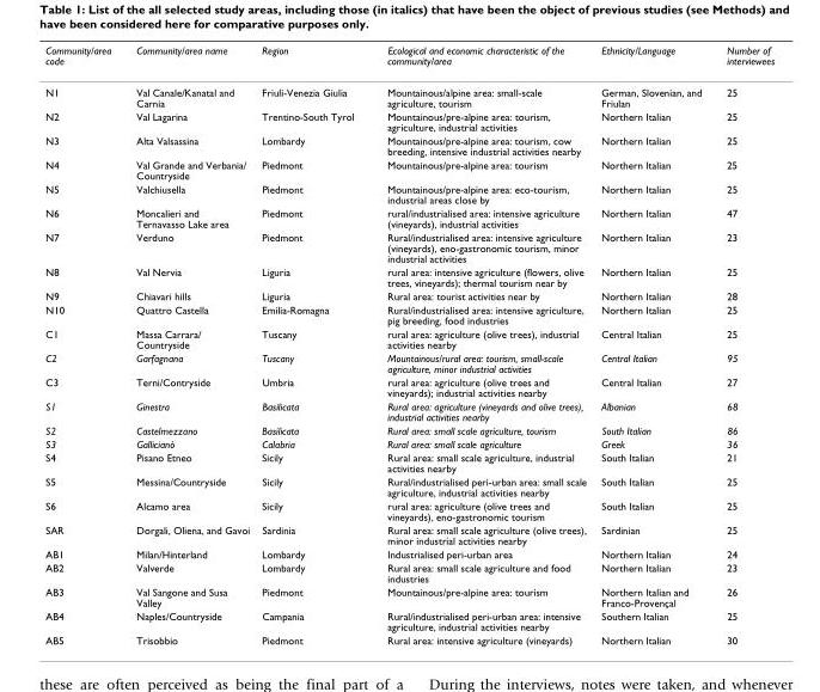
<table><thead><tr><td>Community/area code</td><td>Community/area name</td><td>Region</td><td>Ecological and economic characteristic of the community/area</td><td>Ethnicity/Language</td><td>Number of interviewees</td></tr></thead><tbody><tr><td>N1</td><td>Val Canale/Kanatal and Carnia</td><td>Friuli-Venezia Giulia</td><td>Mountainous/alpine area: small-scale agriculture, tourism</td><td>German, Slovenian, and Friulan</td><td>25</td></tr><tr><td>N2</td><td>Val Lagarina</td><td>Trentino-South Tyrol</td><td>Mountainous/pre-alpine area: tourism, agriculture, industrial activities</td><td>Northern Italian</td><td>25</td></tr><tr><td>N3</td><td>Alta Valsassina</td><td>Lombardy</td><td>Mountainous/pre-alpine area: tourism, cow breeding, intensive industrial activities nearby</td><td>Northern Italian</td><td>25</td></tr><tr><td>N4</td><td>Val Grande and Verbania/ Countryside</td><td>Piedmont</td><td>Mountainous/pre-alpine area: tourism</td><td>Northern Italian</td><td>25</td></tr><tr><td>N5</td><td>Valchiusella</td><td>Piedmont</td><td>Mountainous/pre-alpine area: eco-tourism, industrial areas close by</td><td>Northern Italian</td><td>25</td></tr><tr><td>N6</td><td>Moncalieri and Ternavasso Lake area</td><td>Piedmont</td><td>rural/industrialised area: intensive agriculture (vineyards), industrial activities</td><td>Northern Italian</td><td>47</td></tr><tr><td>N7</td><td>Verduno</td><td>Piedmont</td><td>Rural/industrialised area: intensive agriculture (vineyards), eno-gastronomic tourism, minor industrial activities</td><td>Northern Italian</td><td>23</td></tr><tr><td>N8</td><td>Val Nervia</td><td>Liguria</td><td>rural area: intensive agriculture (flowers, olive trees, vineyards); thermal tourism near by</td><td>Northern Italian</td><td>25</td></tr><tr><td>N9</td><td>Chiavari hills</td><td>Liguria</td><td>Rural area: tourist activities near by</td><td>Northern Italian</td><td>28</td></tr><tr><td>N10</td><td>Quattro Castella</td><td>Emilia-Romagna</td><td>Rural/industrialised area: intensive agriculture, pig breeding, food industries</td><td>Northern Italian</td><td>25</td></tr><tr><td>C1</td><td>Massa Carrara/ Countryside</td><td>Tuscany</td><td>rural area: agriculture (olive trees), industrial activities nearby</td><td>Central Italian</td><td>25</td></tr><tr><td>C2</td><td>Garfagnana</td><td>Tuscany</td><td>Mountainous/rural area: tourism, small-scale agriculture, minor industrial activities</td><td>Central Italian</td><td>95</td></tr><tr><td>C3</td><td>Terni/Contryside</td><td>Umbria</td><td>rural area: agriculture (olive trees and vineyards); industrial activities nearby</td><td>Central Italian</td><td>27</td></tr><tr><td>S1</td><td>Ginestra</td><td>Basilicata</td><td>Rural area: agriculture (vineyards and olive trees), industrial activities nearby</td><td>Albanian</td><td>68</td></tr><tr><td>S2</td><td>Castelmezzano</td><td>Basilicata</td><td>Rural area: small scale agriculture, tourism</td><td>South Italian</td><td>86</td></tr><tr><td>S3</td><td>Gallicianò</td><td>Calabria</td><td>Rural area: small scale agriculture</td><td>Greek</td><td>36</td></tr><tr><td>S4</td><td>Pisano Etneo</td><td>Sicily</td><td>Rural area: small scale agriculture, industrial activities nearby</td><td>South Italian</td><td>21</td></tr><tr><td>S5</td><td>Messina/Countryside</td><td>Sicily</td><td>Rural/industrialised peri-urban area: small scale agriculture, industrial activities nearby</td><td>South Italian</td><td>25</td></tr><tr><td>S6</td><td>Alcamo area</td><td>Sicily</td><td>rural area: agriculture (olive trees and vineyards), eno-gastronomic tourism</td><td>South Italian</td><td>25</td></tr><tr><td>SAR</td><td>Dorgali, Oliena, and Gavoi</td><td>Sardinia</td><td>Rural area: small scale agriculture (olive trees), minor industrial activities nearby</td><td>Sardinian</td><td>25</td></tr><tr><td>AB1</td><td>Milan/Hinterland</td><td>Lombardy</td><td>Industrialised peri-urban area</td><td>Northern Italian</td><td>24</td></tr><tr><td>AB2</td><td>Valverde</td><td>Lombardy</td><td>Rural area: small scale agriculture and food industries</td><td>Northern Italian</td><td>23</td></tr><tr><td>AB3</td><td>Val Sangone and Susa Valley</td><td>Piedmont</td><td>Mountainous/pre-alpine area: tourism</td><td>Northern Italian and Franco-Provençal</td><td>26</td></tr><tr><td>AB4</td><td>Naples/Countryside</td><td>Campania</td><td>Rural/industrialised peri-urban area: intensive agriculture, industrial activities nearby</td><td>Southern Italian</td><td>25</td></tr><tr><td>AB5</td><td>Trisobbio</td><td>Piedmont</td><td>Rural area: intensive agriculture (vineyards)</td><td>Northern Italian</td><td>30</td></tr></tbody></table>